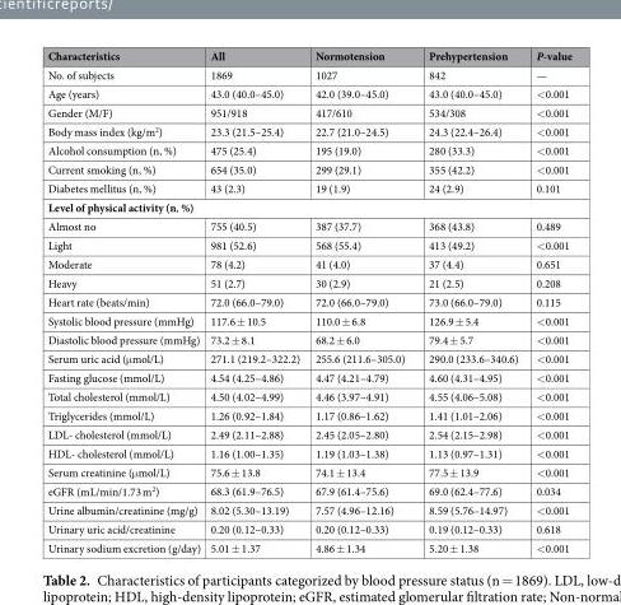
<table><thead><tr><td>Characteristics</td><td>All</td><td>Normotension</td><td>Prehypertension</td><td>P-value</td></tr></thead><tbody><tr><td>No. of subjects</td><td>1869</td><td>1027</td><td>842</td><td>—</td></tr><tr><td>Age (years)</td><td>43.0 (40.0–45.0)</td><td>42.0 (39.0–45.0)</td><td>43.0 (40.0–45.0)</td><td>&lt;0.001</td></tr><tr><td>Gender (M/F)</td><td>951/918</td><td>417/610</td><td>534/308</td><td>&lt;0.001</td></tr><tr><td>Body mass index (kg/m<sup>2</sup>)</td><td>23.3 (21.5–25.4)</td><td>22.7 (21.0–24.5)</td><td>24.3 (22.4–26.4)</td><td>&lt;0.001</td></tr><tr><td>Alcohol consumption (n, %)</td><td>475 (25.4)</td><td>195 (19.0)</td><td>280 (33.3)</td><td>&lt;0.001</td></tr><tr><td>Current smoking (n, %)</td><td>654 (35.0)</td><td>299 (29.1)</td><td>355 (42.2)</td><td>&lt;0.001</td></tr><tr><td>Diabetes mellitus (n, %)</td><td>43 (2.3)</td><td>19 (1.9)</td><td>24 (2.9)</td><td>0.101</td></tr><tr><td colspan="5">Level of physical activity (n, %)</td></tr><tr><td>Almost no</td><td>755 (40.5)</td><td>387 (37.7)</td><td>368 (43.8)</td><td>0.489</td></tr><tr><td>Light</td><td>981 (52.6)</td><td>568 (55.4)</td><td>413 (49.2)</td><td>&lt;0.001</td></tr><tr><td>Moderate</td><td>78 (4.2)</td><td>41 (4.0)</td><td>37 (4.4)</td><td>0.651</td></tr><tr><td>Heavy</td><td>51 (2.7)</td><td>30 (2.9)</td><td>21 (2.5)</td><td>0.208</td></tr><tr><td>Heart rate (beats/min)</td><td>72.0 (66.0–79.0)</td><td>72.0 (66.0–79.0)</td><td>73.0 (66.0–79.0)</td><td>0.115</td></tr><tr><td>Systolic blood pressure (mmHg)</td><td>117.6 ± 10.5</td><td>110.0 ± 6.8</td><td>126.9 ± 5.4</td><td>&lt;0.001</td></tr><tr><td>Diastolic blood pressure (mmHg)</td><td>73.2 ± 8.1</td><td>68.2 ± 6.0</td><td>79.4 ± 5.7</td><td>&lt;0.001</td></tr><tr><td>Serum uric acid (μmol/L)</td><td>271.1 (219.2–322.2)</td><td>255.6 (211.6–305.0)</td><td>290.0 (233.6–340.6)</td><td>&lt;0.001</td></tr><tr><td>Fasting glucose (mmol/L)</td><td>4.54 (4.25–4.86)</td><td>4.47 (4.21–4.79)</td><td>4.60 (4.31–4.95)</td><td>&lt;0.001</td></tr><tr><td>Total cholesterol (mmol/L)</td><td>4.50 (4.02–4.99)</td><td>4.46 (3.97–4.91)</td><td>4.55 (4.06–5.08)</td><td>&lt;0.001</td></tr><tr><td>Triglycerides (mmol/L)</td><td>1.26 (0.92–1.84)</td><td>1.17 (0.86–1.62)</td><td>1.41 (1.01–2.06)</td><td>&lt;0.001</td></tr><tr><td>LDL- cholesterol (mmol/L)</td><td>2.49 (2.11–2.88)</td><td>2.45 (2.05–2.80)</td><td>2.54 (2.15–2.98)</td><td>&lt;0.001</td></tr><tr><td>HDL- cholesterol (mmol/L)</td><td>1.16 (1.00–1.35)</td><td>1.19 (1.03–1.38)</td><td>1.13 (0.97–1.31)</td><td>&lt;0.001</td></tr><tr><td>Serum creatinine (μmol/L)</td><td>75.6 ± 13.8</td><td>74.1 ± 13.4</td><td>77.5 ± 13.9</td><td>&lt;0.001</td></tr><tr><td>eGFR (mL/min/1.73 m<sup>2</sup>)</td><td>68.3 (61.9–76.5)</td><td>67.9 (61.4–75.6)</td><td>69.0 (62.4–77.6)</td><td>0.034</td></tr><tr><td>Urine albumin/creatinine (mg/g)</td><td>8.02 (5.30–13.19)</td><td>7.57 (4.96–12.16)</td><td>8.59 (5.76–14.97)</td><td>&lt;0.001</td></tr><tr><td>Urinary uric acid/creatinine</td><td>0.20 (0.12–0.33)</td><td>0.20 (0.12–0.33)</td><td>0.19 (0.12–0.33)</td><td>0.618</td></tr><tr><td>Urinary sodium excretion (g/day)</td><td>5.01 ± 1.37</td><td>4.86 ± 1.34</td><td>5.20 ± 1.38</td><td>&lt;0.001</td></tr></tbody></table>